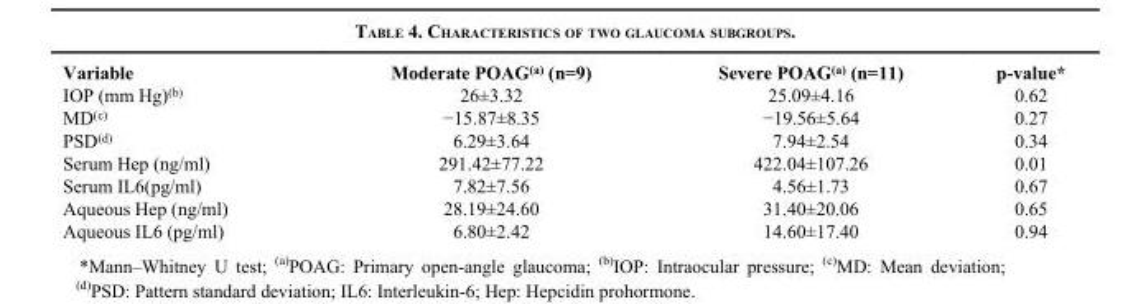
<table><thead><tr><td>Variable</td><td>Moderate POAG<sup>(a)</sup> (n=9)</td><td>Severe POAG<sup>(a)</sup> (n=11)</td><td>p-value*</td></tr></thead><tbody><tr><td>IOP (mm Hg)<sup>(b)</sup></td><td>26±3.32</td><td>25.09±4.16</td><td>0.62</td></tr><tr><td>MD<sup>(c)</sup></td><td>−15.87±8.35</td><td>−19.56±5.64</td><td>0.27</td></tr><tr><td>PSD<sup>(d)</sup></td><td>6.29±3.64</td><td>7.94±2.54</td><td>0.34</td></tr><tr><td>Serum Hep (ng/ml)</td><td>291.42±77.22</td><td>422.04±107.26</td><td>0.01</td></tr><tr><td>Serum IL6(pg/ml)</td><td>7.82±7.56</td><td>4.56±1.73</td><td>0.67</td></tr><tr><td>Aqueous Hep (ng/ml)</td><td>28.19±24.60</td><td>31.40±20.06</td><td>0.65</td></tr><tr><td>Aqueous IL6 (pg/ml)</td><td>6.80±2.42</td><td>14.60±17.40</td><td>0.94</td></tr></tbody></table>